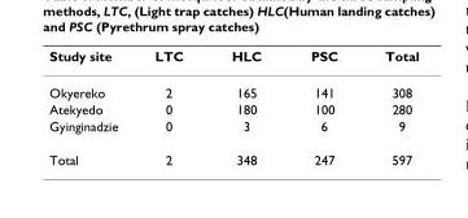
<table><thead><tr><td>Study site</td><td>LTC</td><td>HLC</td><td>PSC</td><td>Total</td></tr></thead><tbody><tr><td>Okyereko</td><td>2</td><td>165</td><td>141</td><td>308</td></tr><tr><td>Atekyedo</td><td>0</td><td>180</td><td>100</td><td>280</td></tr><tr><td>Gyinginadzie</td><td>0</td><td>3</td><td>6</td><td>9</td></tr><tr><td>Total</td><td>2</td><td>348</td><td>247</td><td>597</td></tr></tbody></table>